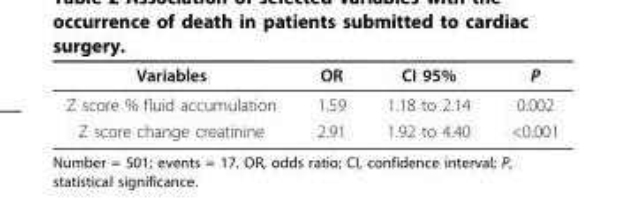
<table><thead><tr><td>Variables</td><td>OR</td><td>CI 95%</td><td>P</td></tr></thead><tbody><tr><td>Z score % fluid accumulation</td><td>1.59</td><td>1.18 to 2.14</td><td>0.002</td></tr><tr><td>Z score change creatinine</td><td>2.91</td><td>1.92 to 4.40</td><td>&lt;0.001</td></tr></tbody></table>